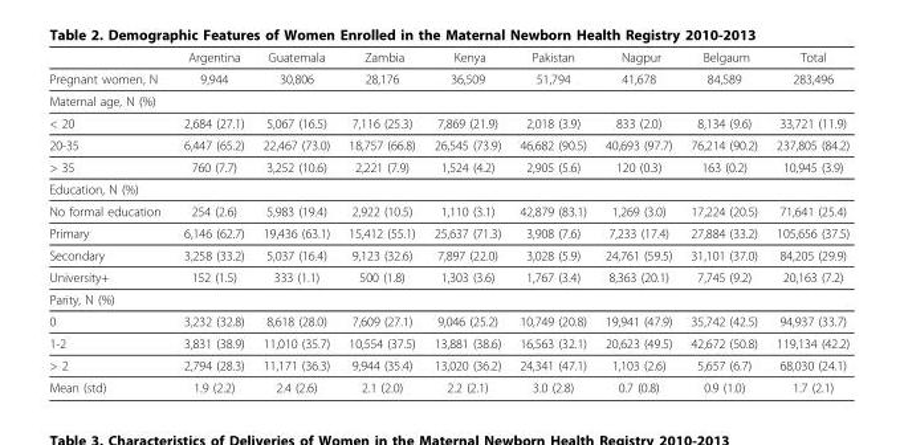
<table><thead><tr><td></td><td>Argentina</td><td>Guatemala</td><td>Zambia</td><td>Kenya</td><td>Pakistan</td><td>Nagpur</td><td>Belgaum</td><td>Total</td></tr></thead><tbody><tr><td>Pregnant women, N</td><td>9,944</td><td>30,806</td><td>28,176</td><td>36,509</td><td>51,794</td><td>41,678</td><td>84,589</td><td>283,496</td></tr><tr><td colspan="9">Maternal age, N (%)</td></tr><tr><td>&lt; 20</td><td>2,684 (27.1)</td><td>5,067 (16.5)</td><td>7,116 (25.3)</td><td>7,869 (21.9)</td><td>2,018 (3.9)</td><td>833 (2.0)</td><td>8,134 (9.6)</td><td>33,721 (11.9)</td></tr><tr><td>20-35</td><td>6,447 (65.2)</td><td>22,467 (73.0)</td><td>18,757 (66.8)</td><td>26,545 (73.9)</td><td>46,682 (90.5)</td><td>40,693 (97.7)</td><td>76,214 (90.2)</td><td>237,805 (84.2)</td></tr><tr><td>&gt; 35</td><td>760 (7.7)</td><td>3,252 (10.6)</td><td>2,221 (7.9)</td><td>1,524 (4.2)</td><td>2,905 (5.6)</td><td>120 (0.3)</td><td>163 (0.2)</td><td>10,945 (3.9)</td></tr><tr><td colspan="9">Education, N (%)</td></tr><tr><td>No formal education</td><td>254 (2.6)</td><td>5,983 (19.4)</td><td>2,922 (10.5)</td><td>1,110 (3.1)</td><td>42,879 (83.1)</td><td>1,269 (3.0)</td><td>17,224 (20.5)</td><td>71,641 (25.4)</td></tr><tr><td>Primary</td><td>6,146 (62.7)</td><td>19,436 (63.1)</td><td>15,412 (55.1)</td><td>25,637 (71.3)</td><td>3,908 (7.6)</td><td>7,233 (17.4)</td><td>27,884 (33.2)</td><td>105,656 (37.5)</td></tr><tr><td>Secondary</td><td>3,258 (33.2)</td><td>5,037 (16.4)</td><td>9,123 (32.6)</td><td>7,897 (22.0)</td><td>3,028 (5.9)</td><td>24,761 (59.5)</td><td>31,101 (37.0)</td><td>84,205 (29.9)</td></tr><tr><td>University+</td><td>152 (1.5)</td><td>333 (1.1)</td><td>500 (1.8)</td><td>1,303 (3.6)</td><td>1,767 (3.4)</td><td>8,363 (20.1)</td><td>7,745 (9.2)</td><td>20,163 (7.2)</td></tr><tr><td colspan="9">Parity, N (%)</td></tr><tr><td>0</td><td>3,232 (32.8)</td><td>8,618 (28.0)</td><td>7,609 (27.1)</td><td>9,046 (25.2)</td><td>10,749 (20.8)</td><td>19,941 (47.9)</td><td>35,742 (42.5)</td><td>94,937 (33.7)</td></tr><tr><td>1-2</td><td>3,831 (38.9)</td><td>11,010 (35.7)</td><td>10,554 (37.5)</td><td>13,881 (38.6)</td><td>16,563 (32.1)</td><td>20,623 (49.5)</td><td>42,672 (50.8)</td><td>119,134 (42.2)</td></tr><tr><td>&gt; 2</td><td>2,794 (28.3)</td><td>11,171 (36.3)</td><td>9,944 (35.4)</td><td>13,020 (36.2)</td><td>24,341 (47.1)</td><td>1,103 (2.6)</td><td>5,657 (6.7)</td><td>68,030 (24.1)</td></tr><tr><td>Mean (std)</td><td>1.9 (2.2)</td><td>2.4 (2.6)</td><td>2.1 (2.0)</td><td>2.2 (2.1)</td><td>3.0 (2.8)</td><td>0.7 (0.8)</td><td>0.9 (1.0)</td><td>1.7 (2.1)</td></tr></tbody></table>